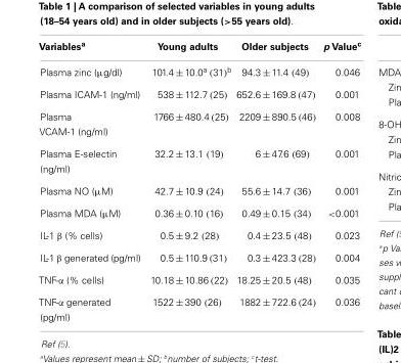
<table><thead><tr><td>Variables<sup>a</sup></td><td>Young adults</td><td>Older subjects</td><td>p Value<sup>c</sup></td></tr></thead><tbody><tr><td>Plasma zinc (µg/dl)</td><td>101.4 ± 10.0<sup>a</sup> (31)<sup>b</sup></td><td>94.3 ± 11.4 (49)</td><td>0.046</td></tr><tr><td>Plasma ICAM-1 (ng/ml)</td><td>538 ± 112.7 (25)</td><td>652.6 ± 169.8 (47)</td><td>0.001</td></tr><tr><td>Plasma VCAM-1 (ng/ml)</td><td>1766 ± 480.4 (25)</td><td>2209 ± 890.5 (46)</td><td>0.008</td></tr><tr><td>Plasma E-selectin (ng/ml)</td><td>32.2 ± 13.1 (19)</td><td>6 ± 47.6 (69)</td><td>0.001</td></tr><tr><td>Plasma NO (µM)</td><td>42.7 ± 10.9 (24)</td><td>55.6 ± 14.7 (36)</td><td>0.001</td></tr><tr><td>Plasma MDA (µM)</td><td>0.36 ± 0.10 (16)</td><td>0.49 ± 0.15 (34)</td><td>&lt;0.001</td></tr><tr><td>IL-1 β (% cells)</td><td>0.5 ± 9.2 (28)</td><td>0.4 ± 23.5 (48)</td><td>0.023</td></tr><tr><td>IL-1 β generated (pg/ml)</td><td>0.5 ± 110.9 (31)</td><td>0.3 ± 423.3 (28)</td><td>0.004</td></tr><tr><td>TNF-α (% cells)</td><td>10.18 ± 10.86 (22)</td><td>18.25 ± 20.5 (48)</td><td>0.035</td></tr><tr><td>TNF-α generated (pg/ml)</td><td>1522 ± 390 (26)</td><td>1882 ± 722.6 (24)</td><td>0.036</td></tr></tbody></table>